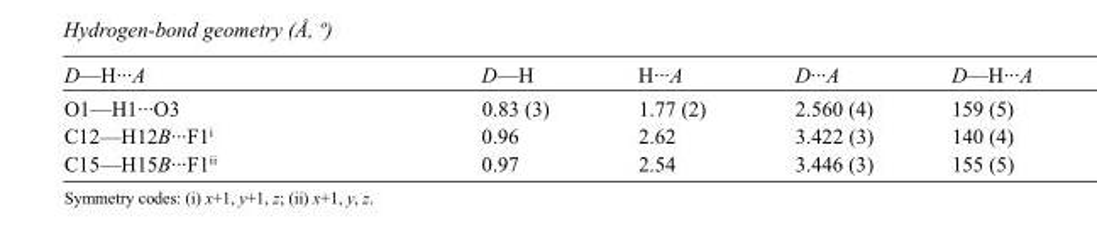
<table><tbody><tr><td>D—H···A</td><td>D—H</td><td>H···A</td><td>D···A</td><td>D—H···A</td></tr><tr><td>O1—H1···O3</td><td>0.83 (3)</td><td>1.77 (2)</td><td>2.560 (4)</td><td>159 (5)</td></tr><tr><td>C12—H12B···F1<sup>i</sup></td><td>0.96</td><td>2.62</td><td>3.422 (3)</td><td>140 (4)</td></tr><tr><td>C15—H15B···F1<sup>ii</sup></td><td>0.97</td><td>2.54</td><td>3.446 (3)</td><td>155 (5)</td></tr></tbody></table>